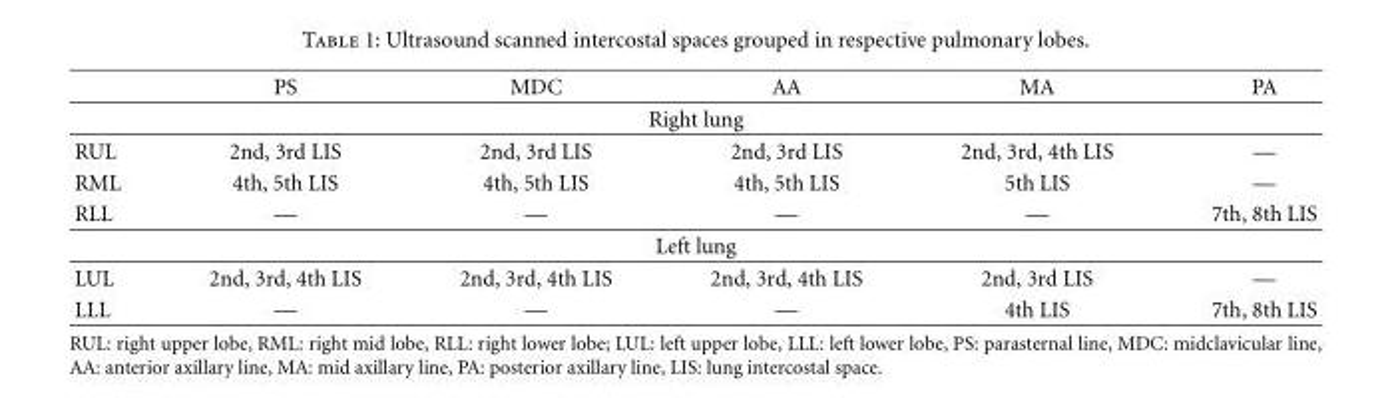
<table><thead><tr><td></td><td>PS</td><td>MDC</td><td>AA</td><td>MA</td><td>PA</td></tr></thead><tbody><tr><td colspan="6">Right lung</td></tr><tr><td>RUL</td><td>2nd, 3rd LIS</td><td>2nd, 3rd LIS</td><td>2nd, 3rd LIS</td><td>2nd, 3rd, 4th LIS</td><td>—</td></tr><tr><td>RML</td><td>4th, 5th LIS</td><td>4th, 5th LIS</td><td>4th, 5th LIS</td><td>5th LIS</td><td>—</td></tr><tr><td>RLL</td><td>—</td><td>—</td><td>—</td><td>—</td><td>7th, 8th LIS</td></tr><tr><td colspan="6">Left lung</td></tr><tr><td>LUL</td><td>2nd, 3rd, 4th LIS</td><td>2nd, 3rd, 4th LIS</td><td>2nd, 3rd, 4th LIS</td><td>2nd, 3rd LIS</td><td>—</td></tr><tr><td>LLL</td><td>—</td><td>—</td><td>—</td><td>4th LIS</td><td>7th, 8th LIS</td></tr></tbody></table>